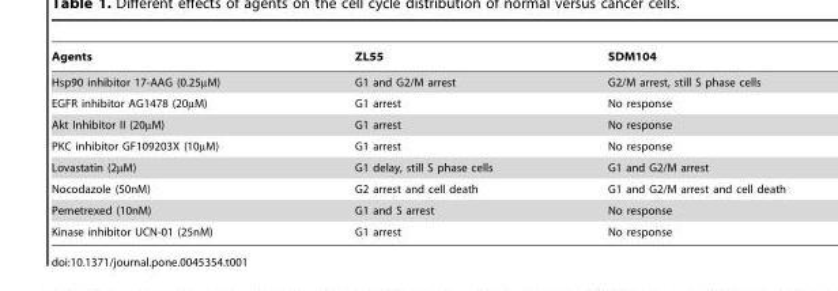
<table><thead><tr><td>Agents</td><td>ZL55</td><td>SDM104</td></tr></thead><tbody><tr><td>Hsp90 inhibitor 17-AAG (0.25µM)</td><td>G1 and G2/M arrest</td><td>G2/M arrest, still S phase cells</td></tr><tr><td>EGFR inhibitor AG1478 (20µM)</td><td>G1 arrest</td><td>No response</td></tr><tr><td>Akt Inhibitor II (20µM)</td><td>G1 arrest</td><td>No response</td></tr><tr><td>PKC inhibitor GF109203X (10µM)</td><td>G1 arrest</td><td>No response</td></tr><tr><td>Lovastatin (2µM)</td><td>G1 delay, still S phase cells</td><td>G1 and G2/M arrest</td></tr><tr><td>Nocodazole (50nM)</td><td>G2 arrest and cell death</td><td>G1 and G2/M arrest and cell death</td></tr><tr><td>Pemetrexed (10nM)</td><td>G1 and S arrest</td><td>No response</td></tr><tr><td>Kinase inhibitor UCN-01 (25nM)</td><td>G1 arrest</td><td>No response</td></tr></tbody></table>